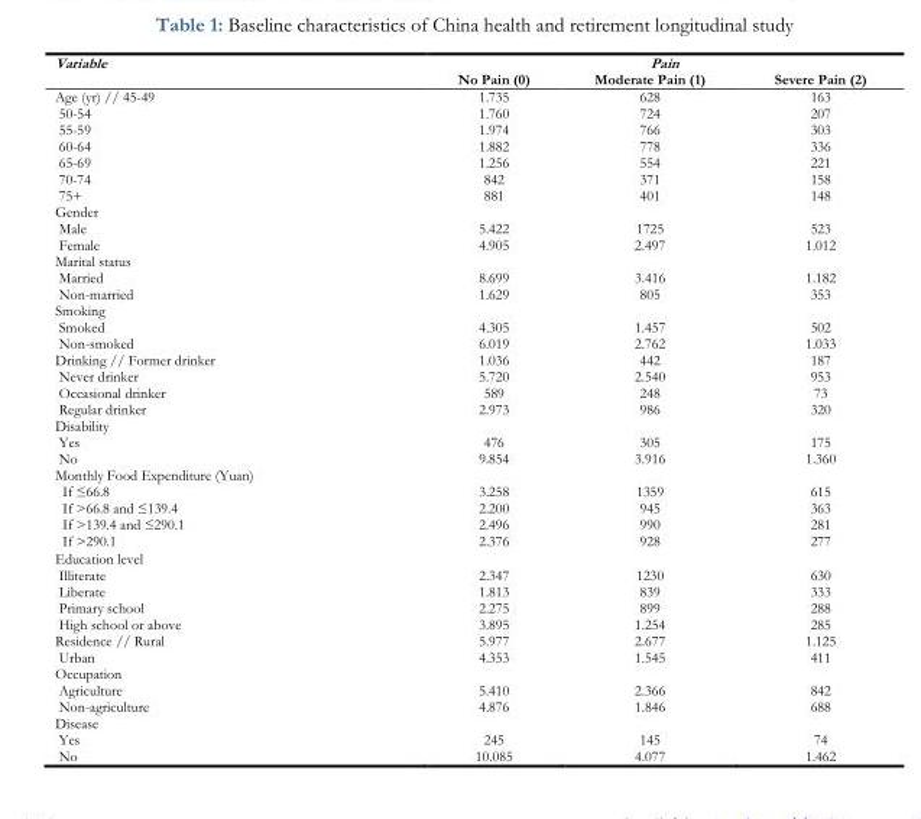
<table><thead><tr><td rowspan="2">Variable</td><td colspan="3">Pain</td></tr><tr><td>No Pain (0)</td><td>Moderate Pain (1)</td><td>Severe Pain (2)</td></tr></thead><tbody><tr><td>Age (yr) // 45-49</td><td>1.735</td><td>628</td><td>163</td></tr><tr><td>50-54</td><td>1.760</td><td>724</td><td>207</td></tr><tr><td>55-59</td><td>1.974</td><td>766</td><td>303</td></tr><tr><td>60-64</td><td>1.882</td><td>778</td><td>336</td></tr><tr><td>65-69</td><td>1.256</td><td>554</td><td>221</td></tr><tr><td>70-74</td><td>842</td><td>371</td><td>158</td></tr><tr><td>75+</td><td>881</td><td>401</td><td>148</td></tr><tr><td colspan="4">Gender</td></tr><tr><td>Male</td><td>5.422</td><td>1725</td><td>523</td></tr><tr><td>Female</td><td>4.905</td><td>2.497</td><td>1.012</td></tr><tr><td colspan="4">Marital status</td></tr><tr><td>Married</td><td>8.699</td><td>3.416</td><td>1.182</td></tr><tr><td>Non-married</td><td>1.629</td><td>805</td><td>353</td></tr><tr><td colspan="4">Smoking</td></tr><tr><td>Smoked</td><td>4.305</td><td>1.457</td><td>502</td></tr><tr><td>Non-smoked</td><td>6.019</td><td>2.762</td><td>1.033</td></tr><tr><td>Drinking // Former drinker</td><td>1.036</td><td>442</td><td>187</td></tr><tr><td>Never drinker</td><td>5.720</td><td>2.540</td><td>953</td></tr><tr><td>Occasional drinker</td><td>589</td><td>248</td><td>73</td></tr><tr><td>Regular drinker</td><td>2.973</td><td>986</td><td>320</td></tr><tr><td colspan="4">Disability</td></tr><tr><td>Yes</td><td>476</td><td>305</td><td>175</td></tr><tr><td>No</td><td>9.854</td><td>3.916</td><td>1.360</td></tr><tr><td colspan="4">Monthly Food Expenditure (Yuan)</td></tr><tr><td>If ≤66.8</td><td>3.258</td><td>1359</td><td>615</td></tr><tr><td>If &gt;66.8 and ≤139.4</td><td>2.200</td><td>945</td><td>363</td></tr><tr><td>If &gt;139.4 and ≤290.1</td><td>2.496</td><td>990</td><td>281</td></tr><tr><td>If &gt;290.1</td><td>2.376</td><td>928</td><td>277</td></tr><tr><td colspan="4">Education level</td></tr><tr><td>Illiterate</td><td>2.347</td><td>1230</td><td>630</td></tr><tr><td>Liberate</td><td>1.813</td><td>839</td><td>333</td></tr><tr><td>Primary school</td><td>2.275</td><td>899</td><td>288</td></tr><tr><td>High school or above</td><td>3.895</td><td>1.254</td><td>285</td></tr><tr><td>Residence // Rural</td><td>5.977</td><td>2.677</td><td>1.125</td></tr><tr><td>Urban</td><td>4.353</td><td>1.545</td><td>411</td></tr><tr><td colspan="4">Occupation</td></tr><tr><td>Agriculture</td><td>5.410</td><td>2.366</td><td>842</td></tr><tr><td>Non-agriculture</td><td>4.876</td><td>1.846</td><td>688</td></tr><tr><td colspan="4">Disease</td></tr><tr><td>Yes</td><td>245</td><td>145</td><td>74</td></tr><tr><td>No</td><td>10.085</td><td>4.077</td><td>1.462</td></tr></tbody></table>